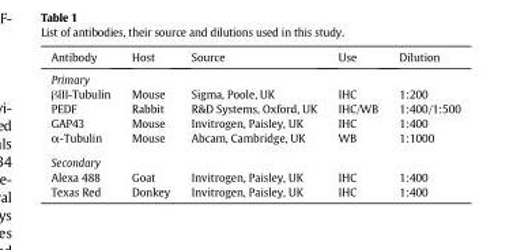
<table><thead><tr><td>Antibody</td><td>Host</td><td>Source</td><td>Use</td><td>Dilution</td></tr></thead><tbody><tr><td colspan="5">Primary</td></tr><tr><td>βIII-Tubulin</td><td>Mouse</td><td>Sigma, Poole, UK</td><td>IHC</td><td>1:200</td></tr><tr><td>PEDF</td><td>Rabbit</td><td>R&amp;D Systems, Oxford, UK</td><td>IHC/WB</td><td>1:400/1:500</td></tr><tr><td>GAP43</td><td>Mouse</td><td>Invitrogen, Paisley, UK</td><td>IHC</td><td>1:400</td></tr><tr><td>α-Tubulin</td><td>Mouse</td><td>Abcam, Cambridge, UK</td><td>WB</td><td>1:1000</td></tr><tr><td colspan="5">Secondary</td></tr><tr><td>Alexa 488</td><td>Goat</td><td>Invitrogen, Paisley, UK</td><td>IHC</td><td>1:400</td></tr><tr><td>Texas Red</td><td>Donkey</td><td>Invitrogen, Paisley, UK</td><td>IHC</td><td>1:400</td></tr></tbody></table>